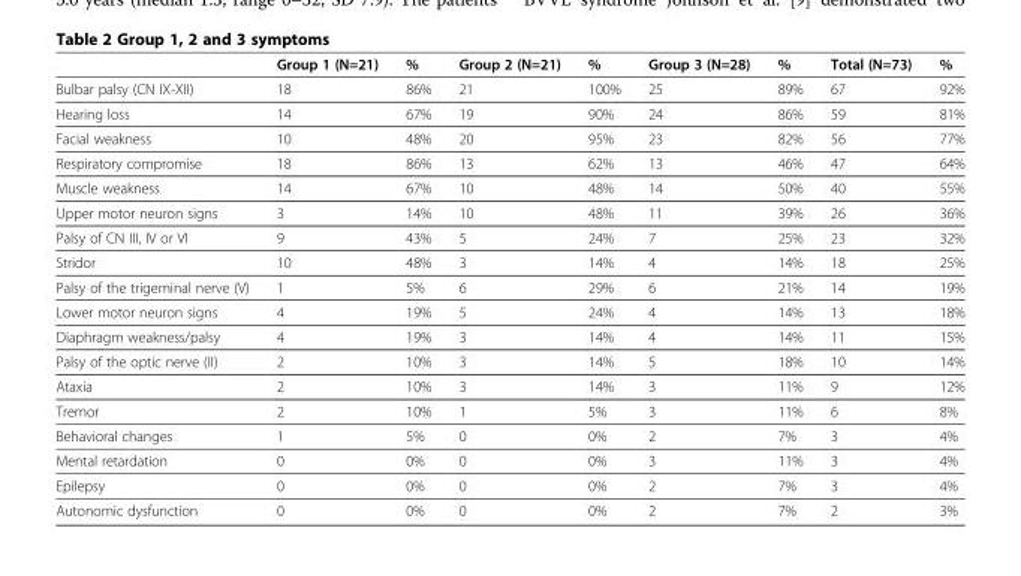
<table><thead><tr><td></td><td>Group 1 (N=21)</td><td>%</td><td>Group 2 (N=21)</td><td>%</td><td>Group 3 (N=28)</td><td>%</td><td>Total (N=73)</td><td>%</td></tr></thead><tbody><tr><td>Bulbar palsy (CN IX-XII)</td><td>18</td><td>86%</td><td>21</td><td>100%</td><td>25</td><td>89%</td><td>67</td><td>92%</td></tr><tr><td>Hearing loss</td><td>14</td><td>67%</td><td>19</td><td>90%</td><td>24</td><td>86%</td><td>59</td><td>81%</td></tr><tr><td>Facial weakness</td><td>10</td><td>48%</td><td>20</td><td>95%</td><td>23</td><td>82%</td><td>56</td><td>77%</td></tr><tr><td>Respiratory compromise</td><td>18</td><td>86%</td><td>13</td><td>62%</td><td>13</td><td>46%</td><td>47</td><td>64%</td></tr><tr><td>Muscle weakness</td><td>14</td><td>67%</td><td>10</td><td>48%</td><td>14</td><td>50%</td><td>40</td><td>55%</td></tr><tr><td>Upper motor neuron signs</td><td>3</td><td>14%</td><td>10</td><td>48%</td><td>11</td><td>39%</td><td>26</td><td>36%</td></tr><tr><td>Palsy of CN III, IV or VI</td><td>9</td><td>43%</td><td>5</td><td>24%</td><td>7</td><td>25%</td><td>23</td><td>32%</td></tr><tr><td>Stridor</td><td>10</td><td>48%</td><td>3</td><td>14%</td><td>4</td><td>14%</td><td>18</td><td>25%</td></tr><tr><td>Palsy of the trigeminal nerve (V)</td><td>1</td><td>5%</td><td>6</td><td>29%</td><td>6</td><td>21%</td><td>14</td><td>19%</td></tr><tr><td>Lower motor neuron signs</td><td>4</td><td>19%</td><td>5</td><td>24%</td><td>4</td><td>14%</td><td>13</td><td>18%</td></tr><tr><td>Diaphragm weakness/palsy</td><td>4</td><td>19%</td><td>3</td><td>14%</td><td>4</td><td>14%</td><td>11</td><td>15%</td></tr><tr><td>Palsy of the optic nerve (II)</td><td>2</td><td>10%</td><td>3</td><td>14%</td><td>5</td><td>18%</td><td>10</td><td>14%</td></tr><tr><td>Ataxia</td><td>2</td><td>10%</td><td>3</td><td>14%</td><td>3</td><td>11%</td><td>9</td><td>12%</td></tr><tr><td>Tremor</td><td>2</td><td>10%</td><td>1</td><td>5%</td><td>3</td><td>11%</td><td>6</td><td>8%</td></tr><tr><td>Behavioral changes</td><td>1</td><td>5%</td><td>0</td><td>0%</td><td>2</td><td>7%</td><td>3</td><td>4%</td></tr><tr><td>Mental retardation</td><td>0</td><td>0%</td><td>0</td><td>0%</td><td>3</td><td>11%</td><td>3</td><td>4%</td></tr><tr><td>Epilepsy</td><td>0</td><td>0%</td><td>0</td><td>0%</td><td>2</td><td>7%</td><td>3</td><td>4%</td></tr><tr><td>Autonomic dysfunction</td><td>0</td><td>0%</td><td>0</td><td>0%</td><td>2</td><td>7%</td><td>2</td><td>3%</td></tr></tbody></table>